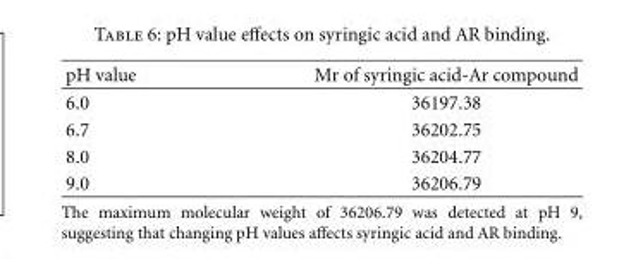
<table><thead><tr><td>pH value</td><td>Mr of syringic acid-Ar compound</td></tr></thead><tbody><tr><td>6.0</td><td>36197.38</td></tr><tr><td>6.7</td><td>36202.75</td></tr><tr><td>8.0</td><td>36204.77</td></tr><tr><td>9.0</td><td>36206.79</td></tr></tbody></table>